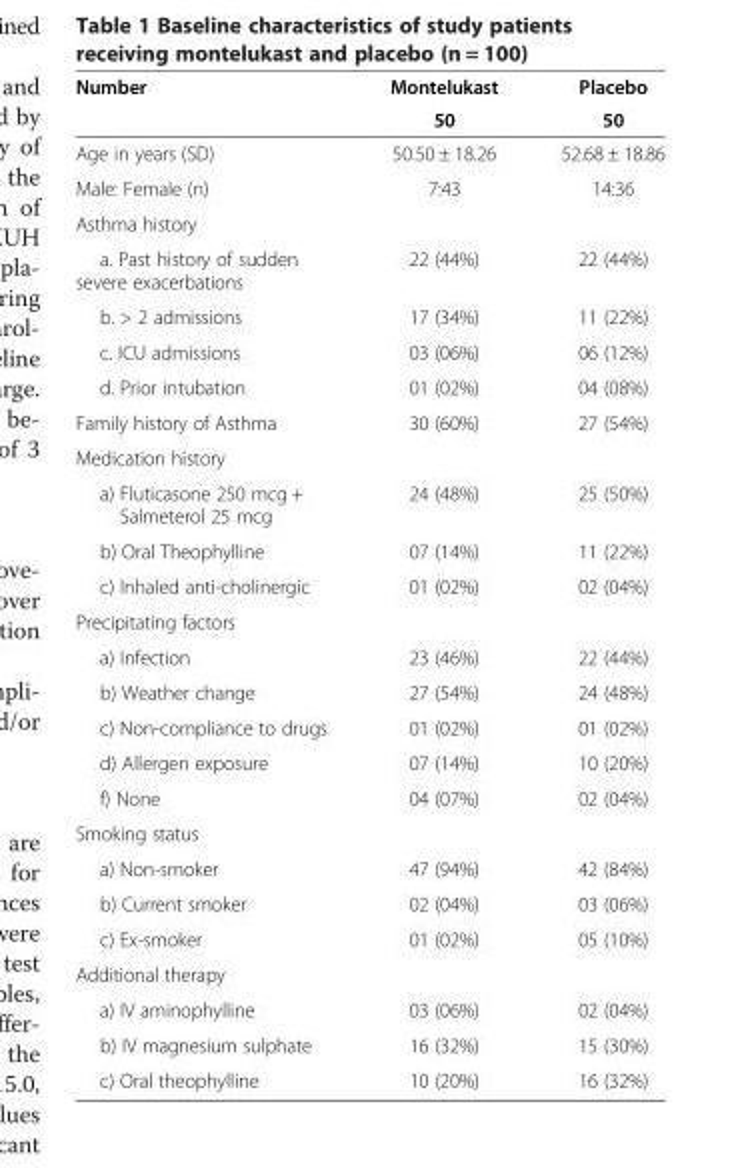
<table><thead><tr><td rowspan="2">Number</td><td rowspan="2">Montelukast 50</td><td rowspan="2">Placebo 50</td></tr><tr></tr></thead><tbody><tr><td>Age in years (SD)</td><td>50.50 ± 18.26</td><td>52.68 ± 18.86</td></tr><tr><td>Male: Female (n)</td><td>7:43</td><td>14:36</td></tr><tr><td colspan="3">Asthma history</td></tr><tr><td>a. Past history of sudden severe exacerbations</td><td>22 (44%)</td><td>22 (44%)</td></tr><tr><td>b. &gt; 2 admissions</td><td>17 (34%)</td><td>11 (22%)</td></tr><tr><td>c. ICU admissions</td><td>03 (06%)</td><td>06 (12%)</td></tr><tr><td>d. Prior intubation</td><td>01 (02%)</td><td>04 (08%)</td></tr><tr><td>Family history of Asthma</td><td>30 (60%)</td><td>27 (54%)</td></tr><tr><td colspan="3">Medication history</td></tr><tr><td>a) Fluticasone 250 mcg + Salmeterol 25 mcg</td><td>24 (48%)</td><td>25 (50%)</td></tr><tr><td>b) Oral Theophylline</td><td>07 (14%)</td><td>11 (22%)</td></tr><tr><td>c) Inhaled anti-cholinergic</td><td>01 (02%)</td><td>02 (04%)</td></tr><tr><td colspan="3">Precipitating factors</td></tr><tr><td>a) Infection</td><td>23 (46%)</td><td>22 (44%)</td></tr><tr><td>b) Weather change</td><td>27 (54%)</td><td>24 (48%)</td></tr><tr><td>c) Non-compliance to drugs</td><td>01 (02%)</td><td>01 (02%)</td></tr><tr><td>d) Allergen exposure</td><td>07 (14%)</td><td>10 (20%)</td></tr><tr><td>f) None</td><td>04 (07%)</td><td>02 (04%)</td></tr><tr><td colspan="3">Smoking status</td></tr><tr><td>a) Non-smoker</td><td>47 (94%)</td><td>42 (84%)</td></tr><tr><td>b) Current smoker</td><td>02 (04%)</td><td>03 (06%)</td></tr><tr><td>c) Ex-smoker</td><td>01 (02%)</td><td>05 (10%)</td></tr><tr><td colspan="3">Additional therapy</td></tr><tr><td>a) IV aminophylline</td><td>03 (06%)</td><td>02 (04%)</td></tr><tr><td>b) IV magnesium sulphate</td><td>16 (32%)</td><td>15 (30%)</td></tr><tr><td>c) Oral theophylline</td><td>10 (20%)</td><td>16 (32%)</td></tr></tbody></table>